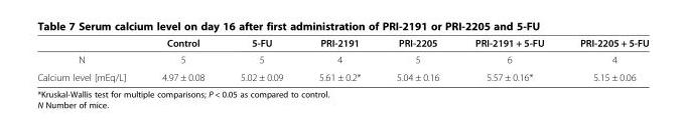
<table><thead><tr><td></td><td>Control</td><td>5-FU</td><td>PRI-2191</td><td>PRI-2205</td><td>PRI-2191 + 5-FU</td><td>PRI-2205 + 5-FU</td></tr></thead><tbody><tr><td>N</td><td>5</td><td>5</td><td>4</td><td>5</td><td>6</td><td>4</td></tr><tr><td>Calcium level [mEq/L]</td><td>4.97 ± 0.08</td><td>5.02 ± 0.09</td><td>5.61 ± 0.2*</td><td>5.04 ± 0.16</td><td>5.57 ± 0.16*</td><td>5.15 ± 0.06</td></tr></tbody></table>